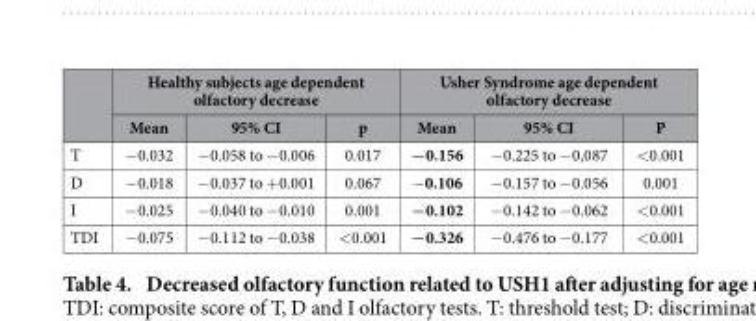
<table><thead><tr><td rowspan="2"></td><td colspan="3">Healthy subjects age dependent olfactory decrease</td><td colspan="3">Usher Syndrome age dependent olfactory decrease</td></tr><tr><td>Mean</td><td>95% CI</td><td>p</td><td>Mean</td><td>95% CI</td><td>P</td></tr></thead><tbody><tr><td>T</td><td>− 0.032</td><td>− 0.058 to − 0.006</td><td>0.017</td><td>−0.156</td><td>− 0.225 to − 0,087</td><td>&lt; 0.001</td></tr><tr><td>D</td><td>− 0.018</td><td>− 0.037 to + 0.001</td><td>0.067</td><td>− 0.106</td><td>− 0.157 to − 0.056</td><td>0.001</td></tr><tr><td>I</td><td>− 0.025</td><td>− 0.040 to − 0.010</td><td>0.001</td><td>−0.102</td><td>− 0.142 to − 0.062</td><td>&lt; 0.001</td></tr><tr><td>TDI</td><td>− 0.075</td><td>− 0.112 to − 0.038</td><td>&lt; 0.001</td><td>−0.326</td><td>− 0.476 to − 0.177</td><td>&lt; 0.001</td></tr></tbody></table>